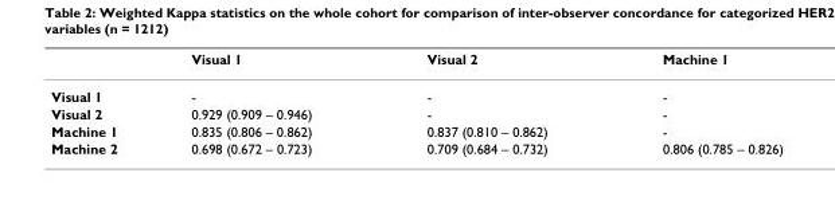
<table><thead><tr><td></td><td>Visual 1</td><td>Visual 2</td><td>Machine 1</td></tr></thead><tbody><tr><td>Visual 1</td><td>-</td><td>-</td><td>-</td></tr><tr><td>Visual 2</td><td>0.929 (0.909 – 0.946)</td><td>-</td><td>-</td></tr><tr><td>Machine 1</td><td>0.835 (0.806 – 0.862)</td><td>0.837 (0.810 – 0.862)</td><td>-</td></tr><tr><td>Machine 2</td><td>0.698 (0.672 – 0.723)</td><td>0.709 (0.684 – 0.732)</td><td>0.806 (0.785 – 0.826)</td></tr></tbody></table>